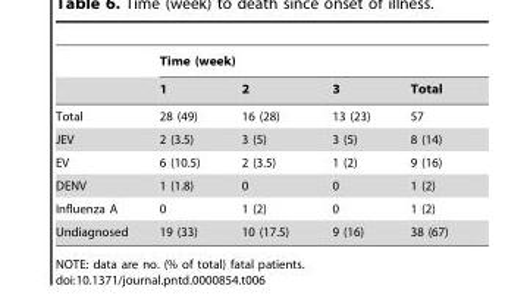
<table><thead><tr><td rowspan="2"></td><td colspan="4">Time (week)</td></tr><tr><td>1</td><td>2</td><td>3</td><td>Total</td></tr></thead><tbody><tr><td>Total</td><td>28 (49)</td><td>16 (28)</td><td>13 (23)</td><td>57</td></tr><tr><td>JEV</td><td>2 (3.5)</td><td>3 (5)</td><td>3 (5)</td><td>8 (14)</td></tr><tr><td>EV</td><td>6 (10.5)</td><td>2 (3.5)</td><td>1 (2)</td><td>9 (16)</td></tr><tr><td>DENV</td><td>1 (1.8)</td><td>0</td><td>0</td><td>1 (2)</td></tr><tr><td>Influenza A</td><td>0</td><td>1 (2)</td><td>0</td><td>1 (2)</td></tr><tr><td>Undiagnosed</td><td>19 (33)</td><td>10 (17.5)</td><td>9 (16)</td><td>38 (67)</td></tr></tbody></table>